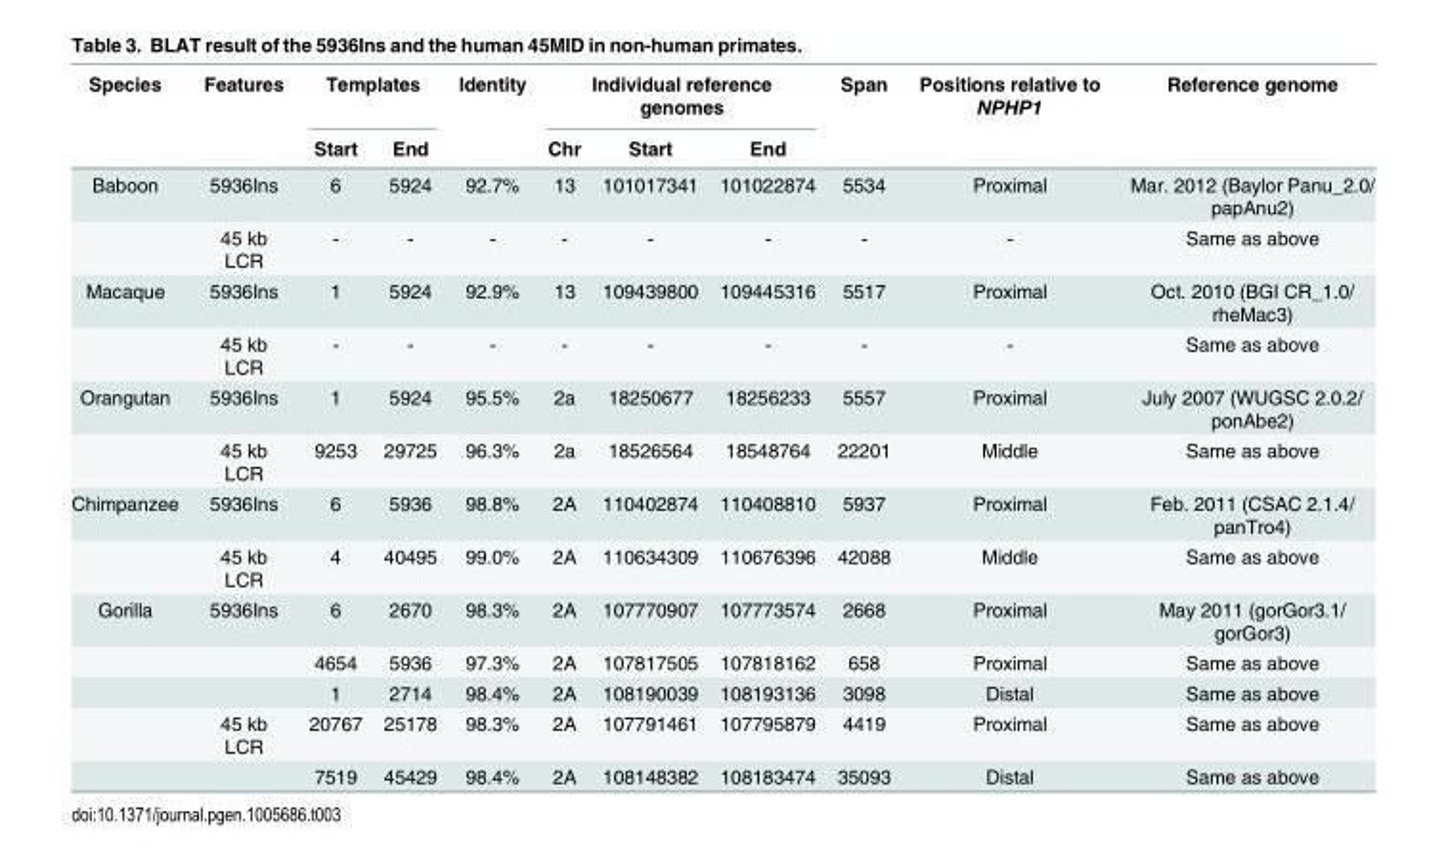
<table><thead><tr><td rowspan="2">Species</td><td rowspan="2">Features</td><td colspan="2">Templates</td><td rowspan="2">Identity</td><td colspan="3">Individual reference genomes</td><td rowspan="2">Span</td><td rowspan="2">Positions relative to NPHP1</td><td rowspan="2">Reference genome</td></tr><tr><td>Start</td><td>End</td><td>Chr</td><td>Start</td><td>End</td></tr></thead><tbody><tr><td rowspan="2">Baboon</td><td>5936Ins</td><td>6</td><td>5924</td><td>92.7%</td><td>13</td><td>101017341</td><td>101022874</td><td>5534</td><td>Proximal</td><td>Mar. 2012 (Baylor Panu_2.0/ papAnu2)</td></tr><tr><td>45 kb LCR</td><td>-</td><td>-</td><td>-</td><td>-</td><td>-</td><td>-</td><td>-</td><td>-</td><td>Same as above</td></tr><tr><td rowspan="2">Macaque</td><td>5936Ins</td><td>1</td><td>5924</td><td>92.9%</td><td>13</td><td>109439800</td><td>109445316</td><td>5517</td><td>Proximal</td><td>Oct. 2010 (BGI CR_1.0/ rheMac3)</td></tr><tr><td>45 kb LCR</td><td>-</td><td>-</td><td>-</td><td>-</td><td>-</td><td>-</td><td>-</td><td>-</td><td>Same as above</td></tr><tr><td rowspan="2">Orangutan</td><td>5936Ins</td><td>1</td><td>5924</td><td>95.5%</td><td>2a</td><td>18250677</td><td>18256233</td><td>5557</td><td>Proximal</td><td>July 2007 (WUGSC 2.0.2/ ponAbe2)</td></tr><tr><td>45 kb LCR</td><td>9253</td><td>29725</td><td>96.3%</td><td>2a</td><td>18526564</td><td>18548764</td><td>22201</td><td>Middle</td><td>Same as above</td></tr><tr><td rowspan="2">Chimpanzee</td><td>5936Ins</td><td>6</td><td>5936</td><td>98.8%</td><td>2A</td><td>110402874</td><td>110408810</td><td>5937</td><td>Proximal</td><td>Feb. 2011 (CSAC 2.1.4/ panTro4)</td></tr><tr><td>45 kb LCR</td><td>4</td><td>40495</td><td>99.0%</td><td>2A</td><td>110634309</td><td>110676396</td><td>42088</td><td>Middle</td><td>Same as above</td></tr><tr><td rowspan="5">Gorilla</td><td>5936Ins</td><td>6</td><td>2670</td><td>98.3%</td><td>2A</td><td>107770907</td><td>107773574</td><td>2668</td><td>Proximal</td><td>May 2011 (gorGor3.1/ gorGor3)</td></tr><tr><td></td><td>4654</td><td>5936</td><td>97.3%</td><td>2A</td><td>107817505</td><td>107818162</td><td>658</td><td>Proximal</td><td>Same as above</td></tr><tr><td></td><td>1</td><td>2714</td><td>98.4%</td><td>2A</td><td>108190039</td><td>108193136</td><td>3098</td><td>Distal</td><td>Same as above</td></tr><tr><td>45 kb LCR</td><td>20767</td><td>25178</td><td>98.3%</td><td>2A</td><td>107791461</td><td>107795879</td><td>4419</td><td>Proximal</td><td>Same as above</td></tr><tr><td></td><td>7519</td><td>45429</td><td>98.4%</td><td>2A</td><td>108148382</td><td>108183474</td><td>35093</td><td>Distal</td><td>Same as above</td></tr></tbody></table>